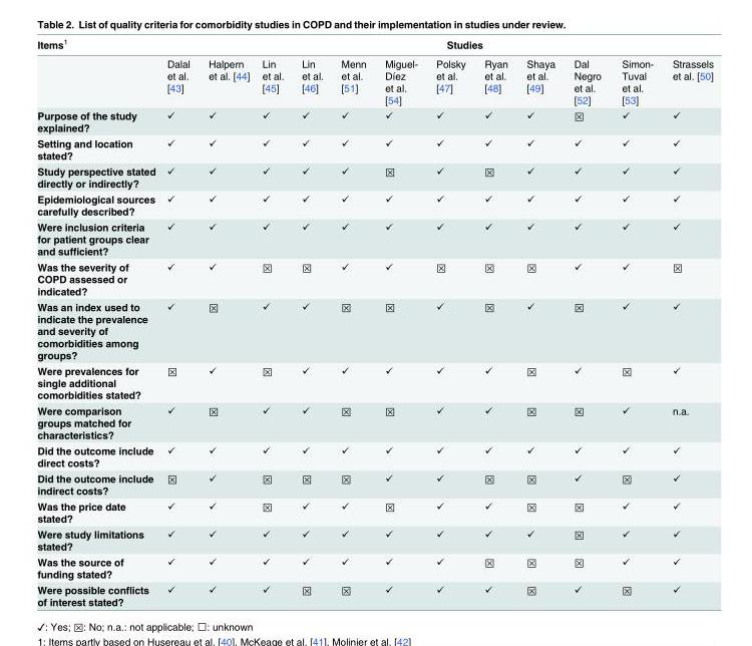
<table><thead><tr><td rowspan="2">Items<sup>1</sup></td><td rowspan="2">Dalal et al. [43]</td><td colspan="11">Studies</td></tr><tr><td>Halpern et al. [44]</td><td>Lin et al. [45]</td><td>Lin et al. [46]</td><td>Menn et al. [51]</td><td>Miguel- Díez et al. [54]</td><td>Polsky et al. [47]</td><td>Ryan et al. [48]</td><td>Shaya et al. [49]</td><td>Dal Negro et al. [52]</td><td>Simon- Tuval et al. [53]</td><td>Strassels et al. [50]</td></tr></thead><tbody><tr><td>Purpose of the study explained?</td><td>✓</td><td>✓</td><td>✓</td><td>✓</td><td>✓</td><td>✓</td><td>✓</td><td>✓</td><td>✓</td><td>⊠</td><td>✓</td><td>✓</td></tr><tr><td>Setting and location stated?</td><td>✓</td><td>✓</td><td>✓</td><td>✓</td><td>✓</td><td>✓</td><td>✓</td><td>✓</td><td>✓</td><td>✓</td><td>✓</td><td>✓</td></tr><tr><td>Study perspective stated directly or indirectly?</td><td>✓</td><td>✓</td><td>✓</td><td>✓</td><td>✓</td><td>⊠</td><td>✓</td><td>⊠</td><td>✓</td><td>✓</td><td>✓</td><td>✓</td></tr><tr><td>Epidemiological sources carefully described?</td><td>✓</td><td>✓</td><td>✓</td><td>✓</td><td>✓</td><td>✓</td><td>✓</td><td>✓</td><td>✓</td><td>✓</td><td>✓</td><td>✓</td></tr><tr><td>Were inclusion criteria for patient groups clear and sufficient?</td><td>✓</td><td>✓</td><td>✓</td><td>✓</td><td>✓</td><td>✓</td><td>✓</td><td>✓</td><td>✓</td><td>✓</td><td>✓</td><td>✓</td></tr><tr><td>Was the severity of COPD assessed or indicated?</td><td>✓</td><td>✓</td><td>⊠</td><td>⊠</td><td>✓</td><td>✓</td><td>⊠</td><td>⊠</td><td>⊠</td><td>✓</td><td>✓</td><td>⊠</td></tr><tr><td>Was an index used to indicate the prevalence and severity of comorbidities among groups?</td><td>✓</td><td>⊠</td><td>✓</td><td>✓</td><td>⊠</td><td>⊠</td><td>✓</td><td>⊠</td><td>✓</td><td>⊠</td><td>✓</td><td>✓</td></tr><tr><td>Were prevalences for single additional comorbidities stated?</td><td>⊠</td><td>✓</td><td>⊠</td><td>✓</td><td>✓</td><td>✓</td><td>✓</td><td>✓</td><td>⊠</td><td>✓</td><td>⊠</td><td>✓</td></tr><tr><td>Were comparison groups matched for characteristics?</td><td>✓</td><td>⊠</td><td>✓</td><td>✓</td><td>⊠</td><td>⊠</td><td>✓</td><td>✓</td><td>⊠</td><td>⊠</td><td>✓</td><td>n.a.</td></tr><tr><td>Did the outcome include direct costs?</td><td>✓</td><td>✓</td><td>✓</td><td>✓</td><td>✓</td><td>✓</td><td>✓</td><td>✓</td><td>✓</td><td>✓</td><td>✓</td><td>✓</td></tr><tr><td>Did the outcome include indirect costs?</td><td>⊠</td><td>✓</td><td>⊠</td><td>⊠</td><td>⊠</td><td>✓</td><td>✓</td><td>⊠</td><td>⊠</td><td>✓</td><td>⊠</td><td>✓</td></tr><tr><td>Was the price date stated?</td><td>✓</td><td>✓</td><td>⊠</td><td>✓</td><td>✓</td><td>⊠</td><td>✓</td><td>✓</td><td>⊠</td><td>⊠</td><td>✓</td><td>✓</td></tr><tr><td>Were study limitations stated?</td><td>✓</td><td>✓</td><td>✓</td><td>✓</td><td>✓</td><td>✓</td><td>✓</td><td>✓</td><td>✓</td><td>⊠</td><td>✓</td><td>✓</td></tr><tr><td>Was the source of funding stated?</td><td>✓</td><td>✓</td><td>✓</td><td>✓</td><td>✓</td><td>✓</td><td>✓</td><td>⊠</td><td>⊠</td><td>⊠</td><td>✓</td><td>✓</td></tr><tr><td>Were possible conflicts of interest stated?</td><td>✓</td><td>✓</td><td>✓</td><td>⊠</td><td>⊠</td><td>✓</td><td>✓</td><td>✓</td><td>⊠</td><td>✓</td><td>⊠</td><td>✓</td></tr></tbody></table>